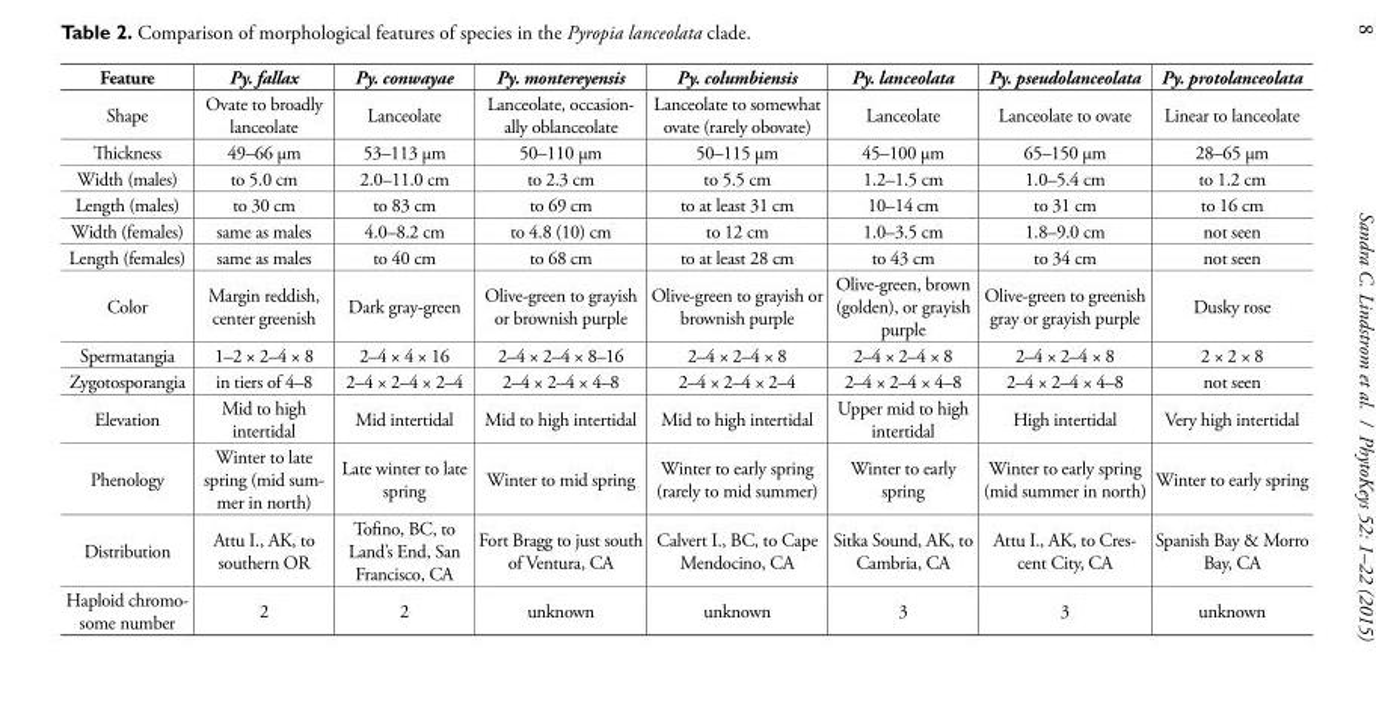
<table><thead><tr><td>Feature</td><td>Py. fallax</td><td>Py. conwayae</td><td>Py. montereyensis</td><td>Py. columbiensis</td><td>Py. lanceolata</td><td>Py. pseudolanceolata</td><td>Py. protolanceolata</td></tr></thead><tbody><tr><td>Shape</td><td>Ovate to broadly lanceolate</td><td>Lanceolate</td><td>Lanceolate, occasion- ally oblanceolate</td><td>Lanceolate to somewhat ovate (rarely obovate)</td><td>Lanceolate</td><td>Lanceolate to ovate</td><td>Linear to lanceolate</td></tr><tr><td>Th ickness</td><td>49–66 μm</td><td>53–113 μm</td><td>50–110 μm</td><td>50–115 μm</td><td>45–100 μm</td><td>65–150 μm</td><td>28–65 μm</td></tr><tr><td>Width (males)</td><td>to 5.0 cm</td><td>2.0–11.0 cm</td><td>to 2.3 cm</td><td>to 5.5 cm</td><td>1.2–1.5 cm</td><td>1.0–5.4 cm</td><td>to 1.2 cm</td></tr><tr><td>Length (males)</td><td>to 30 cm</td><td>to 83 cm</td><td>to 69 cm</td><td>to at least 31 cm</td><td>10–14 cm</td><td>to 31 cm</td><td>to 16 cm</td></tr><tr><td>Width (females)</td><td>same as males</td><td>4.0–8.2 cm</td><td>to 4.8 (10) cm</td><td>to 12 cm</td><td>1.0–3.5 cm</td><td>1.8–9.0 cm</td><td>not seen</td></tr><tr><td>Length (females)</td><td>same as males</td><td>to 40 cm</td><td>to 68 cm</td><td>to at least 28 cm</td><td>to 43 cm</td><td>to 34 cm</td><td>not seen</td></tr><tr><td>Color</td><td>Margin reddish, center greenish</td><td>Dark gray-green</td><td>Olive-green to grayish or brownish purple</td><td>Olive-green to grayish or brownish purple</td><td>Olive-green, brown (golden), or grayish purple</td><td>Olive-green to greenish gray or grayish purple</td><td>Dusky rose</td></tr><tr><td>Spermatangia</td><td>1–2 × 2–4 × 8</td><td>2–4 × 4 × 16</td><td>2–4 × 2–4 × 8–16</td><td>2–4 × 2–4 × 8</td><td>2–4 × 2–4 × 8</td><td>2–4 × 2–4 × 8</td><td>2 × 2 × 8</td></tr><tr><td>Zygotosporangia</td><td>in tiers of 4–8</td><td>2–4 × 2–4 × 2–4</td><td>2–4 × 2–4 × 4–8</td><td>2–4 × 2–4 × 2–4</td><td>2–4 × 2–4 × 4–8</td><td>2–4 × 2–4 × 4–8</td><td>not seen</td></tr><tr><td>Elevation</td><td>Mid to high intertidal</td><td>Mid intertidal</td><td>Mid to high intertidal</td><td>Mid to high intertidal</td><td>Upper mid to high intertidal</td><td>High intertidal</td><td>Very high intertidal</td></tr><tr><td>Phenology</td><td>Winter to late spring (mid sum- mer in north)</td><td>Late winter to late spring</td><td>Winter to mid spring</td><td>Winter to early spring (rarely to mid summer)</td><td>Winter to early spring</td><td>Winter to early spring (mid summer in north)</td><td>Winter to early spring</td></tr><tr><td>Distribution</td><td>Attu I., AK, to southern OR</td><td>Tofi no, BC, to Land’s End, San Francisco, CA</td><td>Fort Bragg to just south of Ventura, CA</td><td>Calvert I., BC, to Cape Mendocino, CA</td><td>Sitka Sound, AK, to Cambria, CA</td><td>Attu I., AK, to Cres- cent City, CA</td><td>Spanish Bay &amp; Morro Bay, CA</td></tr><tr><td>Haploid chromo- some number</td><td>2</td><td>2</td><td>unknown</td><td>unknown</td><td>3</td><td>3</td><td>unknown</td></tr></tbody></table>